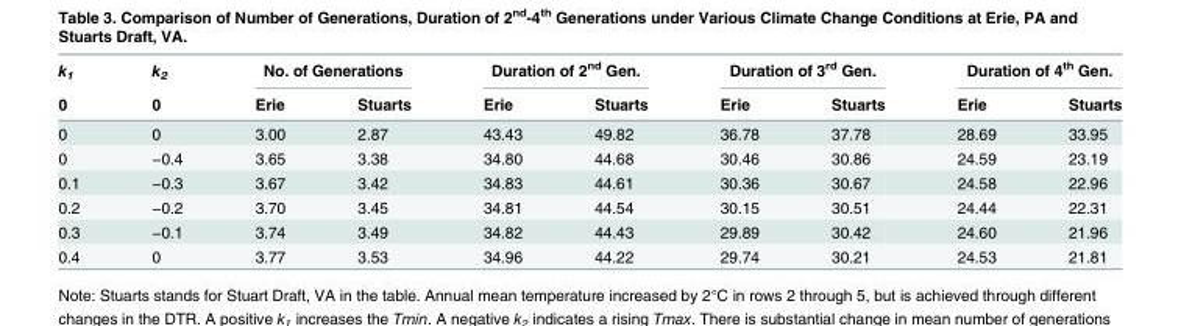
<table><thead><tr><td rowspan="2">k<sub>1</sub> 0</td><td rowspan="2">k<sub>2</sub> 0</td><td colspan="2">No. of Generations</td><td colspan="2">Duration of 2<sup>nd</sup> Gen.</td><td colspan="2">Duration of 3<sup>rd</sup> Gen.</td><td colspan="2">Duration of 4<sup>th</sup> Gen.</td></tr><tr><td>Erie</td><td>Stuarts</td><td>Erie</td><td>Stuarts</td><td>Erie</td><td>Stuarts</td><td>Erie</td><td>Stuarts</td></tr></thead><tbody><tr><td>0</td><td>0</td><td>3.00</td><td>2.87</td><td>43.43</td><td>49.82</td><td>36.78</td><td>37.78</td><td>28.69</td><td>33.95</td></tr><tr><td>0</td><td>−0.4</td><td>3.65</td><td>3.38</td><td>34.80</td><td>44.68</td><td>30.46</td><td>30.86</td><td>24.59</td><td>23.19</td></tr><tr><td>0.1</td><td>−0.3</td><td>3.67</td><td>3.42</td><td>34.83</td><td>44.61</td><td>30.36</td><td>30.67</td><td>24.58</td><td>22.96</td></tr><tr><td>0.2</td><td>−0.2</td><td>3.70</td><td>3.45</td><td>34.81</td><td>44.54</td><td>30.15</td><td>30.51</td><td>24.44</td><td>22.31</td></tr><tr><td>0.3</td><td>−0.1</td><td>3.74</td><td>3.49</td><td>34.82</td><td>44.43</td><td>29.89</td><td>30.42</td><td>24.60</td><td>21.96</td></tr><tr><td>0.4</td><td>0</td><td>3.77</td><td>3.53</td><td>34.96</td><td>44.22</td><td>29.74</td><td>30.21</td><td>24.53</td><td>21.81</td></tr></tbody></table>